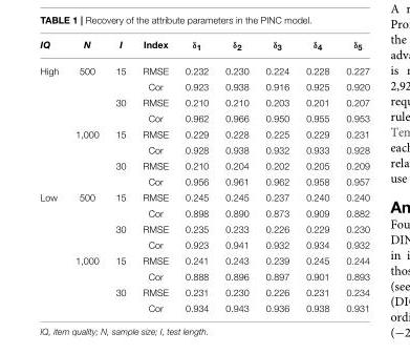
<table><thead><tr><td>IQ</td><td>N</td><td>I</td><td>Index</td><td>δ<sub>1</sub></td><td>δ<sub>2</sub></td><td>δ<sub>3</sub></td><td>δ<sub>4</sub></td><td>δ<sub>5</sub></td></tr></thead><tbody><tr><td rowspan="8">High</td><td>500</td><td>15</td><td>RMSE</td><td>0.232</td><td>0.230</td><td>0.224</td><td>0.228</td><td>0.227</td></tr><tr><td></td><td></td><td>Cor</td><td>0.923</td><td>0.938</td><td>0.916</td><td>0.925</td><td>0.920</td></tr><tr><td></td><td>30</td><td>RMSE</td><td>0.210</td><td>0.210</td><td>0.203</td><td>0.201</td><td>0.207</td></tr><tr><td></td><td></td><td>Cor</td><td>0.962</td><td>0.966</td><td>0.950</td><td>0.955</td><td>0.953</td></tr><tr><td>1,000</td><td>15</td><td>RMSE</td><td>0.229</td><td>0.228</td><td>0.225</td><td>0.229</td><td>0.231</td></tr><tr><td></td><td></td><td>Cor</td><td>0.928</td><td>0.938</td><td>0.932</td><td>0.933</td><td>0.928</td></tr><tr><td></td><td>30</td><td>RMSE</td><td>0.210</td><td>0.204</td><td>0.202</td><td>0.205</td><td>0.209</td></tr><tr><td></td><td></td><td>Cor</td><td>0.956</td><td>0.961</td><td>0.962</td><td>0.958</td><td>0.957</td></tr><tr><td rowspan="8">Low</td><td>500</td><td>15</td><td>RMSE</td><td>0.245</td><td>0.245</td><td>0.237</td><td>0.240</td><td>0.240</td></tr><tr><td></td><td></td><td>Cor</td><td>0.898</td><td>0.890</td><td>0.873</td><td>0.909</td><td>0.882</td></tr><tr><td></td><td>30</td><td>RMSE</td><td>0.235</td><td>0.233</td><td>0.226</td><td>0.229</td><td>0.230</td></tr><tr><td></td><td></td><td>Cor</td><td>0.923</td><td>0.941</td><td>0.932</td><td>0.934</td><td>0.932</td></tr><tr><td>1,000</td><td>15</td><td>RMSE</td><td>0.241</td><td>0.243</td><td>0.239</td><td>0.245</td><td>0.244</td></tr><tr><td></td><td></td><td>Cor</td><td>0.888</td><td>0.896</td><td>0.897</td><td>0.901</td><td>0.893</td></tr><tr><td></td><td>30</td><td>RMSE</td><td>0.231</td><td>0.230</td><td>0.226</td><td>0.231</td><td>0.234</td></tr><tr><td></td><td></td><td>Cor</td><td>0.934</td><td>0.943</td><td>0.936</td><td>0.938</td><td>0.931</td></tr></tbody></table>